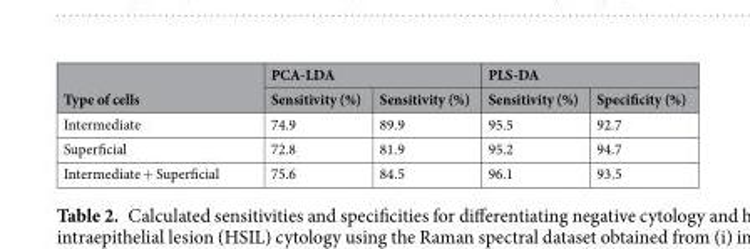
<table><thead><tr><td rowspan="2">Type of cells</td><td colspan="2">PCA-LDA</td><td colspan="2">PLS-DA</td></tr><tr><td>Sensitivity (%)</td><td>Sensitivity (%)</td><td>Sensitivity (%)</td><td>Specificity (%)</td></tr></thead><tbody><tr><td>Intermediate</td><td>74.9</td><td>89.9</td><td>95.5</td><td>92.7</td></tr><tr><td>Superficial</td><td>72.8</td><td>81.9</td><td>95.2</td><td>94.7</td></tr><tr><td>Intermediate + Superficial</td><td>75.6</td><td>84.5</td><td>96.1</td><td>93.5</td></tr></tbody></table>